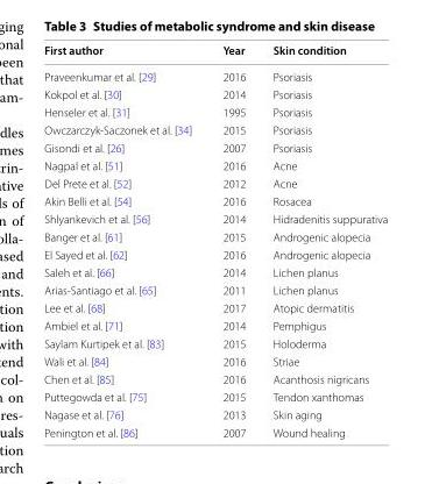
<table><thead><tr><td>First author</td><td>Year</td><td>Skin condition</td></tr></thead><tbody><tr><td>Praveenkumar et al. [29]</td><td>2016</td><td>Psoriasis</td></tr><tr><td>Kokpol et al. [30]</td><td>2014</td><td>Psoriasis</td></tr><tr><td>Henseler et al. [31]</td><td>1995</td><td>Psoriasis</td></tr><tr><td>Owczarczyk‑Saczonek et al. [34]</td><td>2015</td><td>Psoriasis</td></tr><tr><td>Gisondi et al. [26]</td><td>2007</td><td>Psoriasis</td></tr><tr><td>Nagpal et al. [51]</td><td>2016</td><td>Acne</td></tr><tr><td>Del Prete et al. [52]</td><td>2012</td><td>Acne</td></tr><tr><td>Akin Belli et al. [54]</td><td>2016</td><td>Rosacea</td></tr><tr><td>Shlyankevich et al. [56]</td><td>2014</td><td>Hidradenitis suppurativa</td></tr><tr><td>Banger et al. [61]</td><td>2015</td><td>Androgenic alopecia</td></tr><tr><td>El Sayed et al. [62]</td><td>2016</td><td>Androgenic alopecia</td></tr><tr><td>Saleh et al. [66]</td><td>2014</td><td>Lichen planus</td></tr><tr><td>Arias‑Santiago et al. [65]</td><td>2011</td><td>Lichen planus</td></tr><tr><td>Lee et al. [68]</td><td>2017</td><td>Atopic dermatitis</td></tr><tr><td>Ambiel et al. [71]</td><td>2014</td><td>Pemphigus</td></tr><tr><td>Saylam Kurtipek et al. [83]</td><td>2015</td><td>Holoderma</td></tr><tr><td>Wali et al. [84]</td><td>2016</td><td>Striae</td></tr><tr><td>Chen et al. [85]</td><td>2016</td><td>Acanthosis nigricans</td></tr><tr><td>Puttegowda et al. [75]</td><td>2015</td><td>Tendon xanthomas</td></tr><tr><td>Nagase et al. [76]</td><td>2013</td><td>Skin aging</td></tr><tr><td>Penington et al. [86]</td><td>2007</td><td>Wound healing</td></tr></tbody></table>